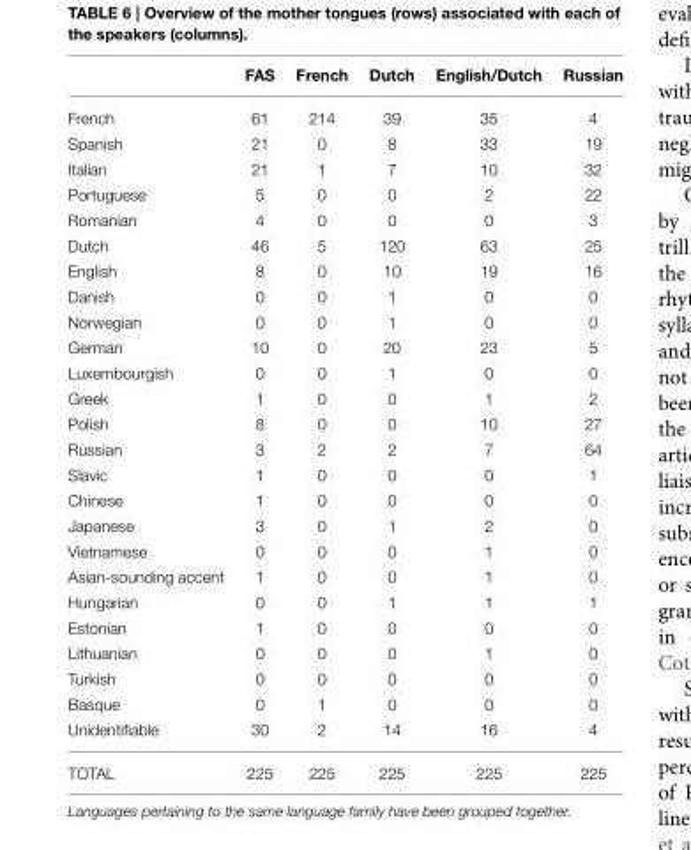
<table><thead><tr><td></td><td>FAS</td><td>French</td><td>Dutch</td><td>English/Dutch</td><td>Russian</td></tr></thead><tbody><tr><td>French</td><td>61</td><td>214</td><td>39</td><td>35</td><td>4</td></tr><tr><td>Spanish</td><td>21</td><td>0</td><td>8</td><td>33</td><td>19</td></tr><tr><td>Italian</td><td>21</td><td>1</td><td>7</td><td>10</td><td>32</td></tr><tr><td>Portuguese</td><td>5</td><td>0</td><td>0</td><td>2</td><td>22</td></tr><tr><td>Romanian</td><td>4</td><td>0</td><td>0</td><td>0</td><td>3</td></tr><tr><td>Dutch</td><td>46</td><td>5</td><td>120</td><td>63</td><td>25</td></tr><tr><td>English</td><td>8</td><td>0</td><td>10</td><td>19</td><td>16</td></tr><tr><td>Danish</td><td>0</td><td>0</td><td>1</td><td>0</td><td>0</td></tr><tr><td>Norwegian</td><td>0</td><td>0</td><td>1</td><td>0</td><td>0</td></tr><tr><td>German</td><td>10</td><td>0</td><td>20</td><td>23</td><td>5</td></tr><tr><td>Luxembourgish</td><td>0</td><td>0</td><td>1</td><td>0</td><td>0</td></tr><tr><td>Greek</td><td>1</td><td>0</td><td>0</td><td>1</td><td>2</td></tr><tr><td>Polish</td><td>8</td><td>0</td><td>0</td><td>10</td><td>27</td></tr><tr><td>Russian</td><td>3</td><td>2</td><td>2</td><td>7</td><td>64</td></tr><tr><td>Slavic</td><td>1</td><td>0</td><td>0</td><td>0</td><td>1</td></tr><tr><td>Chinese</td><td>1</td><td>0</td><td>0</td><td>0</td><td>0</td></tr><tr><td>Japanese</td><td>3</td><td>0</td><td>1</td><td>2</td><td>0</td></tr><tr><td>Vietnamese</td><td>0</td><td>0</td><td>0</td><td>1</td><td>0</td></tr><tr><td>Asian-sounding accent</td><td>1</td><td>0</td><td>0</td><td>1</td><td>0</td></tr><tr><td>Hungarian</td><td>0</td><td>0</td><td>1</td><td>1</td><td>1</td></tr><tr><td>Estonian</td><td>1</td><td>0</td><td>0</td><td>0</td><td>0</td></tr><tr><td>Lithuanian</td><td>0</td><td>0</td><td>0</td><td>1</td><td>0</td></tr><tr><td>Turkish</td><td>0</td><td>0</td><td>0</td><td>0</td><td>0</td></tr><tr><td>Basque</td><td>0</td><td>1</td><td>0</td><td>0</td><td>0</td></tr><tr><td>Unidentifiable</td><td>30</td><td>2</td><td>14</td><td>16</td><td>4</td></tr><tr><td>TOTAL</td><td>225</td><td>225</td><td>225</td><td>225</td><td>225</td></tr></tbody></table>